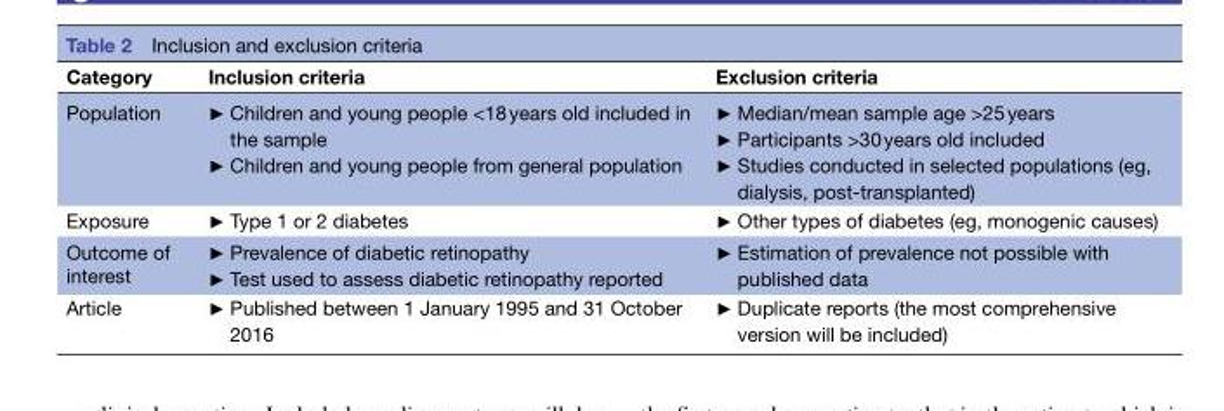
<table><thead><tr><td>Category</td><td>Inclusion criteria</td><td>Exclusion criteria</td></tr></thead><tbody><tr><td>Population</td><td>► Children and young people &lt;18 years old included in the sample ► Children and young people from general population</td><td>► Median/mean sample age &gt;25 years ► Participants &gt;30 years old included ► Studies conducted in selected populations (eg, dialysis, post-transplanted)</td></tr><tr><td>Exposure</td><td>► Type 1 or 2 diabetes</td><td>► Other types of diabetes (eg, monogenic causes)</td></tr><tr><td>Outcome of interest</td><td>► Prevalence of diabetic retinopathy ► Test used to assess diabetic retinopathy reported</td><td>► Estimation of prevalence not possible with published data</td></tr><tr><td>Article</td><td>► Published between 1 January 1995 and 31 October 2016</td><td>► Duplicate reports (the most comprehensive version will be included)</td></tr></tbody></table>